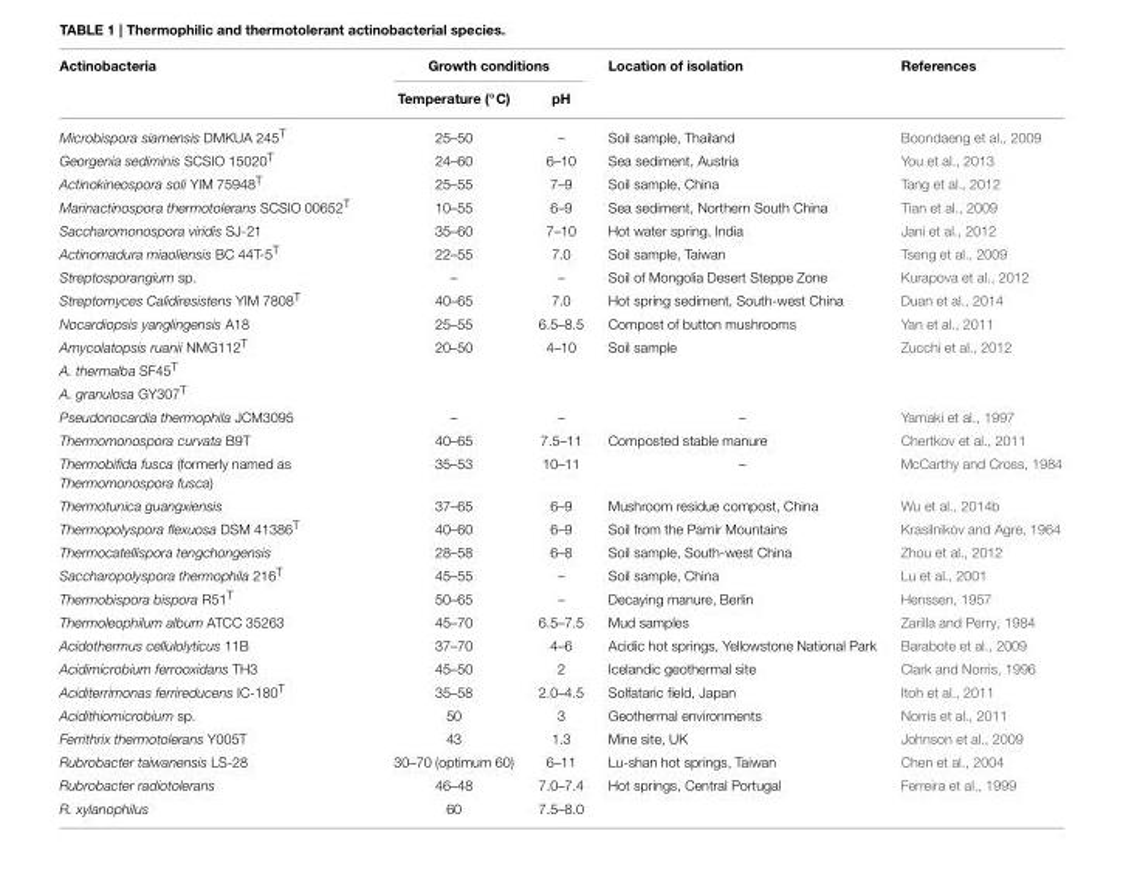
<table><thead><tr><td rowspan="2">Actinobacteria</td><td colspan="2">Growth conditions</td><td rowspan="2">Location of isolation</td><td rowspan="2">References</td></tr><tr><td>Temperature (◦C)</td><td>pH</td></tr></thead><tbody><tr><td>Microbispora siamensis DMKUA 245<sup>T</sup></td><td>25–50</td><td>–</td><td>Soil sample, Thailand</td><td>Boondaeng et al., 2009</td></tr><tr><td>Georgenia sediminis SCSIO 15020<sup>T</sup></td><td>24–60</td><td>6–10</td><td>Sea sediment, Austria</td><td>You et al., 2013</td></tr><tr><td>Actinokineospora soli YIM 75948<sup>T</sup></td><td>25–55</td><td>7–9</td><td>Soil sample, China</td><td>Tang et al., 2012</td></tr><tr><td>Marinactinospora thermotolerans SCSIO 00652<sup>T</sup></td><td>10–55</td><td>6–9</td><td>Sea sediment, Northern South China</td><td>Tian et al., 2009</td></tr><tr><td>Saccharomonospora viridis SJ-21</td><td>35–60</td><td>7–10</td><td>Hot water spring, India</td><td>Jani et al., 2012</td></tr><tr><td>Actinomadura miaoliensis BC 44T-5<sup>T</sup></td><td>22–55</td><td>7.0</td><td>Soil sample, Taiwan</td><td>Tseng et al., 2009</td></tr><tr><td>Streptosporangium sp.</td><td>–</td><td>–</td><td>Soil of Mongolia Desert Steppe Zone</td><td>Kurapova et al., 2012</td></tr><tr><td>Streptomyces Calidiresistens YIM 7808<sup>T</sup></td><td>40–65</td><td>7.0</td><td>Hot spring sediment, South-west China</td><td>Duan et al., 2014</td></tr><tr><td>Nocardiopsis yanglingensis A18</td><td>25–55</td><td>6.5–8.5</td><td>Compost of button mushrooms</td><td>Yan et al., 2011</td></tr><tr><td>Amycolatopsis ruanii NMG112<sup>T</sup></td><td>20–50</td><td>4–10</td><td>Soil sample</td><td>Zucchi et al., 2012</td></tr><tr><td colspan="5">A. thermalba SF45<sup>T</sup></td></tr><tr><td colspan="5">A. granulosa GY307<sup>T</sup></td></tr><tr><td>Pseudonocardia thermophila JCM3095</td><td>–</td><td>–</td><td>–</td><td>Yamaki et al., 1997</td></tr><tr><td>Thermomonospora curvata B9T</td><td>40–65</td><td>7.5–11</td><td>Composted stable manure</td><td>Chertkov et al., 2011</td></tr><tr><td>Thermobifida fusca (formerly named as Thermomonospora fusca)</td><td>35–53</td><td>10–11</td><td>–</td><td>McCarthy and Cross, 1984</td></tr><tr><td>Thermotunica guangxiensis</td><td>37–65</td><td>6–9</td><td>Mushroom residue compost, China</td><td>Wu et al., 2014b</td></tr><tr><td>Thermopolyspora flexuosa DSM 41386<sup>T</sup></td><td>40–60</td><td>6–9</td><td>Soil from the Pamir Mountains</td><td>Krasilnikov and Agre, 1964</td></tr><tr><td>Thermocatellispora tengchongensis</td><td>28–58</td><td>6–8</td><td>Soil sample, South-west China</td><td>Zhou et al., 2012</td></tr><tr><td>Saccharopolyspora thermophila 216<sup>T</sup></td><td>45–55</td><td>–</td><td>Soil sample, China</td><td>Lu et al., 2001</td></tr><tr><td>Thermobispora bispora R51<sup>T</sup></td><td>50–65</td><td>–</td><td>Decaying manure, Berlin</td><td>Henssen, 1957</td></tr><tr><td>Thermoleophilum album ATCC 35263</td><td>45–70</td><td>6.5–7.5</td><td>Mud samples</td><td>Zarilla and Perry, 1984</td></tr><tr><td>Acidothermus cellulolyticus 11B</td><td>37–70</td><td>4–6</td><td>Acidic hot springs, Yellowstone National Park</td><td>Barabote et al., 2009</td></tr><tr><td>Acidimicrobium ferrooxidans TH3</td><td>45–50</td><td>2</td><td>Icelandic geothermal site</td><td>Clark and Norris, 1996</td></tr><tr><td>Aciditerrimonas ferrireducens IC-180<sup>T</sup></td><td>35–58</td><td>2.0–4.5</td><td>Solfataric field, Japan</td><td>Itoh et al., 2011</td></tr><tr><td>Acidithiomicrobium sp.</td><td>50</td><td>3</td><td>Geothermal environments</td><td>Norris et al., 2011</td></tr><tr><td>Ferrithrix thermotolerans Y005T</td><td>43</td><td>1.3</td><td>Mine site, UK</td><td>Johnson et al., 2009</td></tr><tr><td>Rubrobacter taiwanensis LS-28</td><td>30–70 (optimum 60)</td><td>6–11</td><td>Lu-shan hot springs, Taiwan</td><td>Chen et al., 2004</td></tr><tr><td>Rubrobacter radiotolerans</td><td>46–48</td><td>7.0–7.4</td><td>Hot springs, Central Portugal</td><td>Ferreira et al., 1999</td></tr><tr><td>R. xylanophilus</td><td>60</td><td>7.5–8.0</td><td></td><td></td></tr></tbody></table>